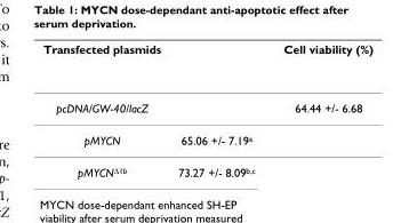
<table><thead><tr><td>Transfected plasmids</td><td>Cell viability (%)</td></tr></thead><tbody><tr><td>pcDNA/GW-40/lacZ</td><td>64.44 +/- 6.68</td></tr><tr><td>pMYCN</td><td>65.06 +/- 7.19<sup>a</sup></td></tr><tr><td>pMYCN<sup>Δ1b</sup></td><td>73.27 +/- 8.09<sup>b,c</sup></td></tr></tbody></table>